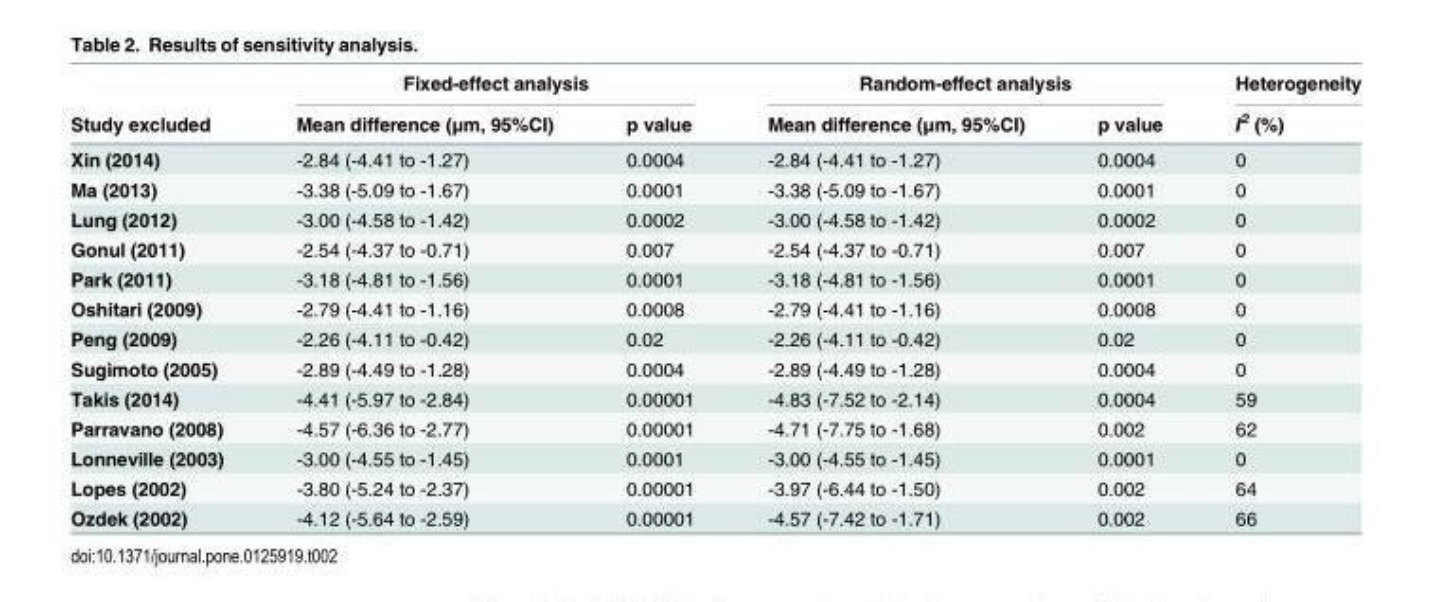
<table><thead><tr><td rowspan="2">Study excluded</td><td colspan="2">Fixed-effect analysis</td><td colspan="2">Random-effect analysis</td><td rowspan="2">Heterogeneity I<sup>2</sup> (%)</td></tr><tr><td>Mean difference (μm, 95%CI)</td><td>p value</td><td>Mean difference (μm, 95%CI)</td><td>p value</td></tr></thead><tbody><tr><td>Xin (2014)</td><td>-2.84 (-4.41 to -1.27)</td><td>0.0004</td><td>-2.84 (-4.41 to -1.27)</td><td>0.0004</td><td>0</td></tr><tr><td>Ma (2013)</td><td>-3.38 (-5.09 to -1.67)</td><td>0.0001</td><td>-3.38 (-5.09 to -1.67)</td><td>0.0001</td><td>0</td></tr><tr><td>Lung (2012)</td><td>-3.00 (-4.58 to -1.42)</td><td>0.0002</td><td>-3.00 (-4.58 to -1.42)</td><td>0.0002</td><td>0</td></tr><tr><td>Gonul (2011)</td><td>-2.54 (-4.37 to -0.71)</td><td>0.007</td><td>-2.54 (-4.37 to -0.71)</td><td>0.007</td><td>0</td></tr><tr><td>Park (2011)</td><td>-3.18 (-4.81 to -1.56)</td><td>0.0001</td><td>-3.18 (-4.81 to -1.56)</td><td>0.0001</td><td>0</td></tr><tr><td>Oshitari (2009)</td><td>-2.79 (-4.41 to -1.16)</td><td>0.0008</td><td>-2.79 (-4.41 to -1.16)</td><td>0.0008</td><td>0</td></tr><tr><td>Peng (2009)</td><td>-2.26 (-4.11 to -0.42)</td><td>0.02</td><td>-2.26 (-4.11 to -0.42)</td><td>0.02</td><td>0</td></tr><tr><td>Sugimoto (2005)</td><td>-2.89 (-4.49 to -1.28)</td><td>0.0004</td><td>-2.89 (-4.49 to -1.28)</td><td>0.0004</td><td>0</td></tr><tr><td>Takis (2014)</td><td>-4.41 (-5.97 to -2.84)</td><td>0.00001</td><td>-4.83 (-7.52 to -2.14)</td><td>0.0004</td><td>59</td></tr><tr><td>Parravano (2008)</td><td>-4.57 (-6.36 to -2.77)</td><td>0.00001</td><td>-4.71 (-7.75 to -1.68)</td><td>0.002</td><td>62</td></tr><tr><td>Lonneville (2003)</td><td>-3.00 (-4.55 to -1.45)</td><td>0.0001</td><td>-3.00 (-4.55 to -1.45)</td><td>0.0001</td><td>0</td></tr><tr><td>Lopes (2002)</td><td>-3.80 (-5.24 to -2.37)</td><td>0.00001</td><td>-3.97 (-6.44 to -1.50)</td><td>0.002</td><td>64</td></tr><tr><td>Ozdek (2002)</td><td>-4.12 (-5.64 to -2.59)</td><td>0.00001</td><td>-4.57 (-7.42 to -1.71)</td><td>0.002</td><td>66</td></tr></tbody></table>